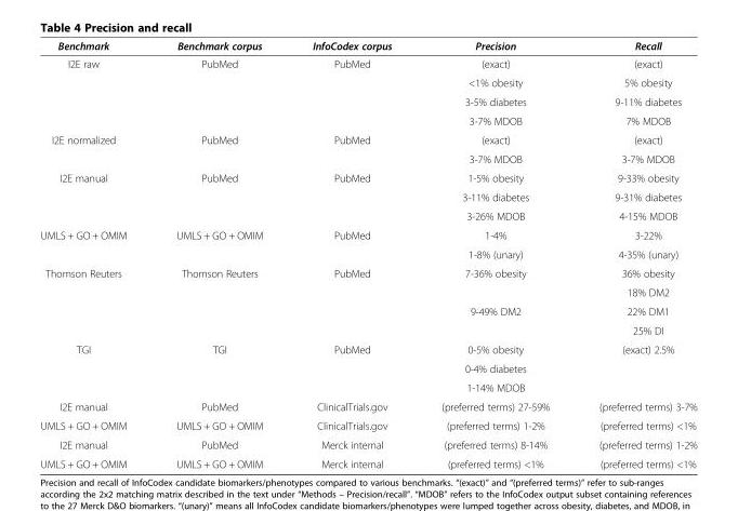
<table><thead><tr><td>Benchmark</td><td>Benchmark corpus</td><td>InfoCodex corpus</td><td>Precision</td><td>Recall</td></tr></thead><tbody><tr><td rowspan="4">I2E raw</td><td rowspan="4">PubMed</td><td rowspan="4">PubMed</td><td>(exact)</td><td>(exact)</td></tr><tr><td>&lt;1% obesity</td><td>5% obesity</td></tr><tr><td>3-5% diabetes</td><td>9-11% diabetes</td></tr><tr><td>3-7% MDOB</td><td>7% MDOB</td></tr><tr><td rowspan="2">I2E normalized</td><td rowspan="2">PubMed</td><td rowspan="2">PubMed</td><td>(exact)</td><td>(exact)</td></tr><tr><td>3-7% MDOB</td><td>3-7% MDOB</td></tr><tr><td rowspan="3">I2E manual</td><td rowspan="3">PubMed</td><td rowspan="3">PubMed</td><td>1-5% obesity</td><td>9-33% obesity</td></tr><tr><td>3-11% diabetes</td><td>9-31% diabetes</td></tr><tr><td>3-26% MDOB</td><td>4-15% MDOB</td></tr><tr><td rowspan="2">UMLS + GO + OMIM</td><td rowspan="2">UMLS + GO + OMIM</td><td rowspan="2">PubMed</td><td>1-4%</td><td>3-22%</td></tr><tr><td>1-8% (unary)</td><td>4-35% (unary)</td></tr><tr><td rowspan="4">Thomson Reuters</td><td rowspan="4">Thomson Reuters</td><td rowspan="4">PubMed</td><td rowspan="2">7-36% obesity</td><td>36% obesity</td></tr><tr><td>18% DM2</td></tr><tr><td rowspan="2">9-49% DM2</td><td>22% DM1</td></tr><tr><td>25% DI</td></tr><tr><td rowspan="3">TGI</td><td rowspan="3">TGI</td><td rowspan="3">PubMed</td><td>0-5% obesity</td><td rowspan="3">(exact) 2.5%</td></tr><tr><td>0-4% diabetes</td></tr><tr><td>1-14% MDOB</td></tr><tr><td>I2E manual</td><td>PubMed</td><td>ClinicalTrials.gov</td><td>(preferred terms) 27-59%</td><td>(preferred terms) 3-7%</td></tr><tr><td>UMLS + GO + OMIM</td><td>UMLS + GO + OMIM</td><td>ClinicalTrials.gov</td><td>(preferred terms) 1-2%</td><td>(preferred terms) &lt;1%</td></tr><tr><td>I2E manual</td><td>PubMed</td><td>Merck internal</td><td>(preferred terms) 8-14%</td><td>(preferred terms) 1-2%</td></tr><tr><td>UMLS + GO + OMIM</td><td>UMLS + GO + OMIM</td><td>Merck internal</td><td>(preferred terms) &lt;1%</td><td>(preferred terms) &lt;1%</td></tr></tbody></table>